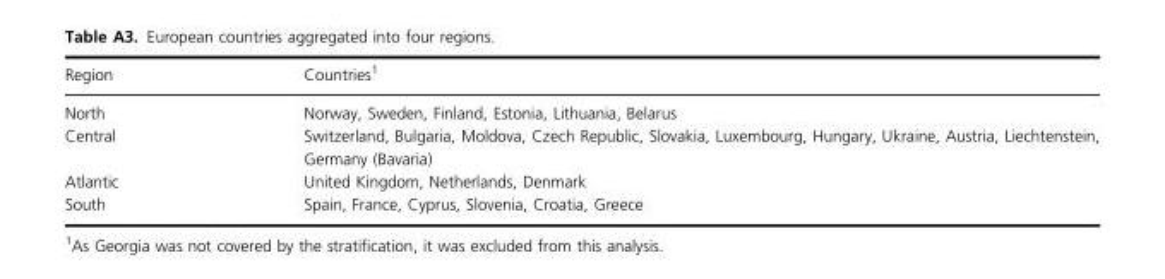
<table><thead><tr><td>Region</td><td>Countries1</td></tr></thead><tbody><tr><td>North</td><td>Norway, Sweden, Finland, Estonia, Lithuania, Belarus</td></tr><tr><td>Central</td><td>Switzerland, Bulgaria, Moldova, Czech Republic, Slovakia, Luxembourg, Hungary, Ukraine, Austria, Liechtenstein, Germany (Bavaria)</td></tr><tr><td>Atlantic</td><td>United Kingdom, Netherlands, Denmark</td></tr><tr><td>South</td><td>Spain, France, Cyprus, Slovenia, Croatia, Greece</td></tr></tbody></table>